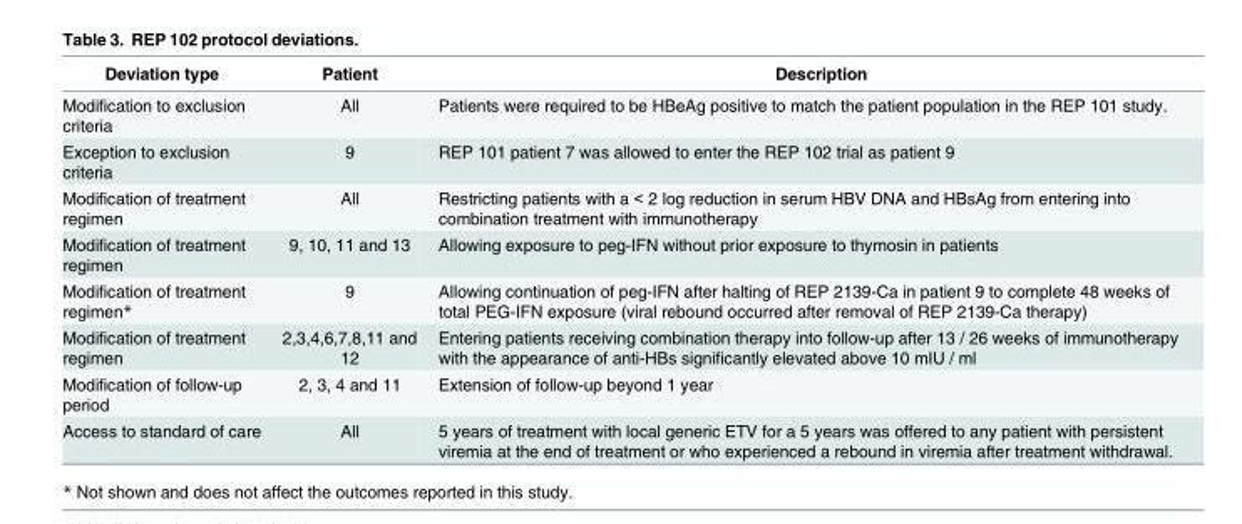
<table><thead><tr><td>Deviation type</td><td>Patient</td><td>Description</td></tr></thead><tbody><tr><td>Modification to exclusion criteria</td><td>All</td><td>Patients were required to be HBeAg positive to match the patient population in the REP 101 study.</td></tr><tr><td>Exception to exclusion criteria</td><td>9</td><td>REP 101 patient 7 was allowed to enter the REP 102 trial as patient 9</td></tr><tr><td>Modification of treatment regimen</td><td>All</td><td>Restricting patients with a &lt; 2 log reduction in serum HBV DNA and HBsAg from entering into combination treatment with immunotherapy</td></tr><tr><td>Modification of treatment regimen</td><td>9, 10, 11 and 13</td><td>Allowing exposure to peg-IFN without prior exposure to thymosin in patients</td></tr><tr><td>Modification of treatment regimen*</td><td>9</td><td>Allowing continuation of peg-IFN after halting of REP 2139-Ca in patient 9 to complete 48 weeks of total PEG-IFN exposure (viral rebound occurred after removal of REP 2139-Ca therapy)</td></tr><tr><td>Modification of treatment regimen</td><td>2,3,4,6,7,8,11 and 12</td><td>Entering patients receiving combination therapy into follow-up after 13 / 26 weeks of immunotherapy with the appearance of anti-HBs significantly elevated above 10 mIU / ml</td></tr><tr><td>Modification of follow-up period</td><td>2, 3, 4 and 11</td><td>Extension of follow-up beyond 1 year</td></tr><tr><td>Access to standard of care</td><td>All</td><td>5 years of treatment with local generic ETV for a 5 years was offered to any patient with persistent viremia at the end of treatment or who experienced a rebound in viremia after treatment withdrawal.</td></tr></tbody></table>